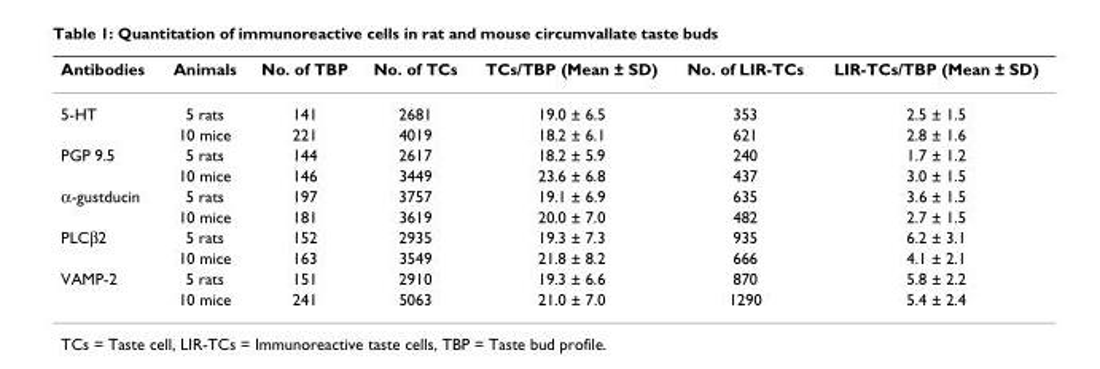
<table><thead><tr><td>Antibodies</td><td>Animals</td><td>No. of TBP</td><td>No. of TCs</td><td>TCs/TBP (Mean ± SD)</td><td>No. of LIR-TCs</td><td>LIR-TCs/TBP (Mean ± SD)</td></tr></thead><tbody><tr><td rowspan="2">5-HT</td><td>5 rats</td><td>141</td><td>2681</td><td>19.0 ± 6.5</td><td>353</td><td>2.5 ± 1.5</td></tr><tr><td>10 mice</td><td>221</td><td>4019</td><td>18.2 ± 6.1</td><td>621</td><td>2.8 ± 1.6</td></tr><tr><td rowspan="2">PGP 9.5</td><td>5 rats</td><td>144</td><td>2617</td><td>18.2 ± 5.9</td><td>240</td><td>1.7 ± 1.2</td></tr><tr><td>10 mice</td><td>146</td><td>3449</td><td>23.6 ± 6.8</td><td>437</td><td>3.0 ± 1.5</td></tr><tr><td rowspan="2">α-gustducin</td><td>5 rats</td><td>197</td><td>3757</td><td>19.1 ± 6.9</td><td>635</td><td>3.6 ± 1.5</td></tr><tr><td>10 mice</td><td>181</td><td>3619</td><td>20.0 ± 7.0</td><td>482</td><td>2.7 ± 1.5</td></tr><tr><td rowspan="2">PLCβ2</td><td>5 rats</td><td>152</td><td>2935</td><td>19.3 ± 7.3</td><td>935</td><td>6.2 ± 3.1</td></tr><tr><td>10 mice</td><td>163</td><td>3549</td><td>21.8 ± 8.2</td><td>666</td><td>4.1 ± 2.1</td></tr><tr><td rowspan="2">VAMP-2</td><td>5 rats</td><td>151</td><td>2910</td><td>19.3 ± 6.6</td><td>870</td><td>5.8 ± 2.2</td></tr><tr><td>10 mice</td><td>241</td><td>5063</td><td>21.0 ± 7.0</td><td>1290</td><td>5.4 ± 2.4</td></tr></tbody></table>